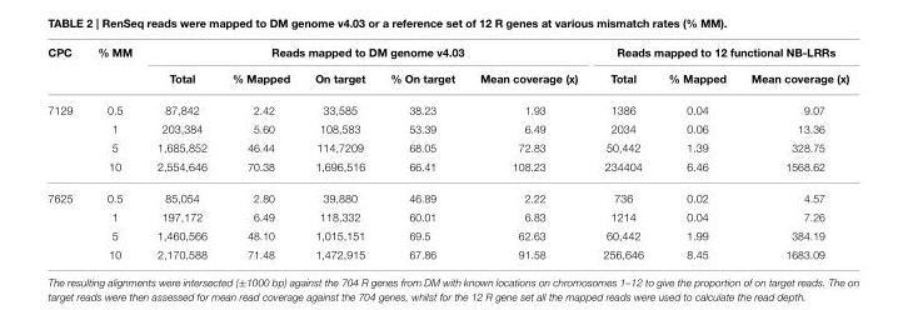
<table><thead><tr><td rowspan="2">CPC</td><td rowspan="2">% MM</td><td colspan="5">Reads mapped to DM genome v4.03</td><td colspan="3">Reads mapped to 12 functional NB-LRRs</td></tr><tr><td>Total</td><td>% Mapped</td><td>On target</td><td>% On target</td><td>Mean coverage (x)</td><td>Total</td><td>% Mapped</td><td>Mean coverage (x)</td></tr></thead><tbody><tr><td rowspan="4">7129</td><td>0.5</td><td>87,842</td><td>2.42</td><td>33,585</td><td>38.23</td><td>1.93</td><td>1386</td><td>0.04</td><td>9.07</td></tr><tr><td>1</td><td>203,384</td><td>5.60</td><td>108,583</td><td>53.39</td><td>6.49</td><td>2034</td><td>0.06</td><td>13.36</td></tr><tr><td>5</td><td>1,685,852</td><td>46.44</td><td>114,7209</td><td>68.05</td><td>72.83</td><td>50,442</td><td>1.39</td><td>328.75</td></tr><tr><td>10</td><td>2,554,646</td><td>70.38</td><td>1,696,516</td><td>66.41</td><td>108.23</td><td>234404</td><td>6.46</td><td>1568.62</td></tr><tr><td rowspan="4">7625</td><td>0.5</td><td>85,054</td><td>2.80</td><td>39,880</td><td>46.89</td><td>2.22</td><td>736</td><td>0.02</td><td>4.57</td></tr><tr><td>1</td><td>197,172</td><td>6.49</td><td>118,332</td><td>60.01</td><td>6.83</td><td>1214</td><td>0.04</td><td>7.26</td></tr><tr><td>5</td><td>1,460,566</td><td>48.10</td><td>1,015,151</td><td>69.5</td><td>62.63</td><td>60,442</td><td>1.99</td><td>384.19</td></tr><tr><td>10</td><td>2,170,588</td><td>71.48</td><td>1,472,915</td><td>67.86</td><td>91.58</td><td>256,646</td><td>8.45</td><td>1683.09</td></tr></tbody></table>